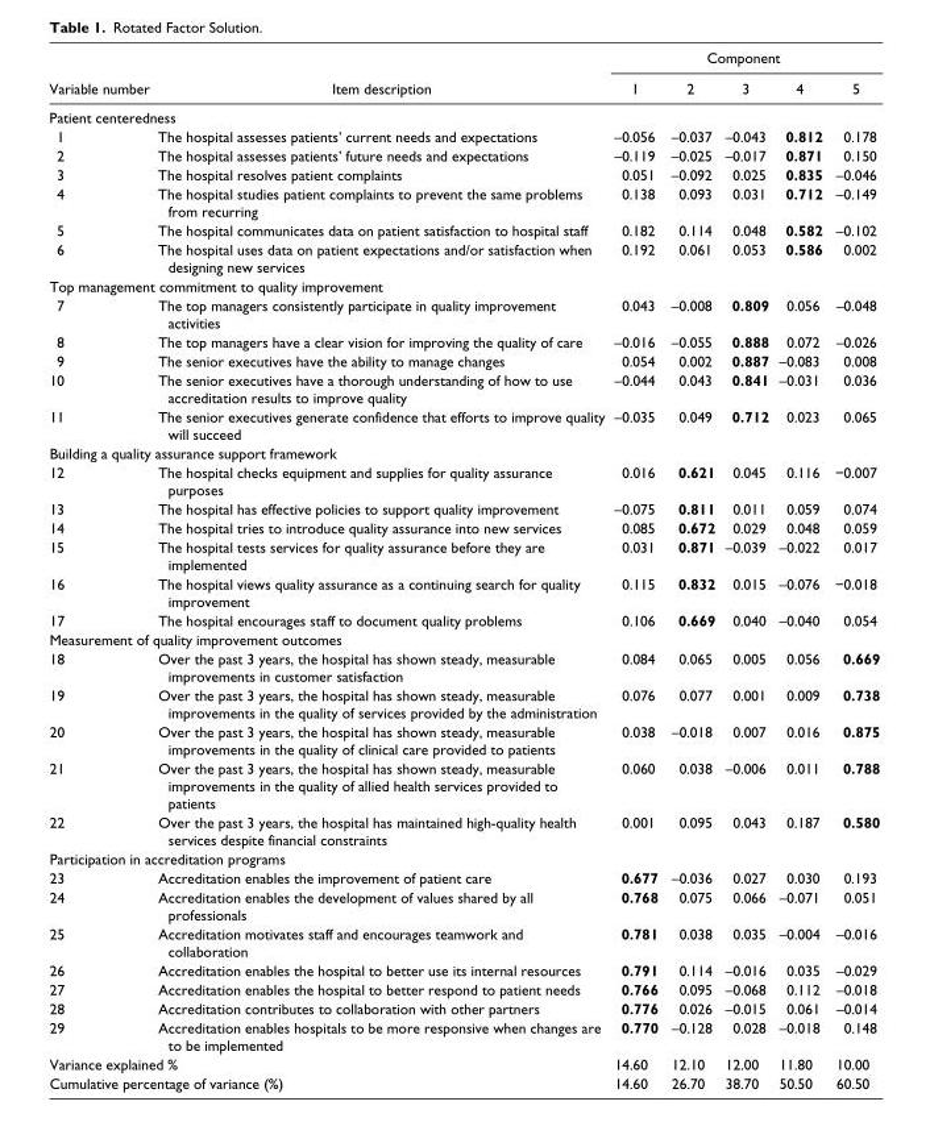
<table><thead><tr><td rowspan="2">Variable number</td><td rowspan="2">Item description</td><td colspan="5">Component</td></tr><tr><td>1</td><td>2</td><td>3</td><td>4</td><td>5</td></tr></thead><tbody><tr><td colspan="7">Patient centeredness</td></tr><tr><td>1</td><td>The hospital assesses patients’ current needs and expectations</td><td>–0.056</td><td>–0.037</td><td>–0.043</td><td>0.812</td><td>0.178</td></tr><tr><td>2</td><td>The hospital assesses patients’ future needs and expectations</td><td>–0.119</td><td>–0.025</td><td>–0.017</td><td>0.871</td><td>0.150</td></tr><tr><td>3</td><td>The hospital resolves patient complaints</td><td>0.051</td><td>–0.092</td><td>0.025</td><td>0.835</td><td>–0.046</td></tr><tr><td>4</td><td>The hospital studies patient complaints to prevent the same problems from recurring</td><td>0.138</td><td>0.093</td><td>0.031</td><td>0.712</td><td>–0.149</td></tr><tr><td>5</td><td>The hospital communicates data on patient satisfaction to hospital staff</td><td>0.182</td><td>0.114</td><td>0.048</td><td>0.582</td><td>–0.102</td></tr><tr><td>6</td><td>The hospital uses data on patient expectations and/or satisfaction when designing new services</td><td>0.192</td><td>0.061</td><td>0.053</td><td>0.586</td><td>0.002</td></tr><tr><td colspan="7">Top management commitment to quality improvement</td></tr><tr><td>7</td><td>The top managers consistently participate in quality improvement activities</td><td>0.043</td><td>–0.008</td><td>0.809</td><td>0.056</td><td>–0.048</td></tr><tr><td>8</td><td>The top managers have a clear vision for improving the quality of care</td><td>–0.016</td><td>–0.055</td><td>0.888</td><td>0.072</td><td>–0.026</td></tr><tr><td>9</td><td>The senior executives have the ability to manage changes</td><td>0.054</td><td>0.002</td><td>0.887</td><td>–0.083</td><td>0.008</td></tr><tr><td>10</td><td>The senior executives have a thorough understanding of how to use accreditation results to improve quality</td><td>–0.044</td><td>0.043</td><td>0.841</td><td>–0.031</td><td>0.036</td></tr><tr><td>11</td><td>The senior executives generate confidence that efforts to improve quality will succeed</td><td>–0.035</td><td>0.049</td><td>0.712</td><td>0.023</td><td>0.065</td></tr><tr><td colspan="7">Building a quality assurance support framework</td></tr><tr><td>12</td><td>The hospital checks equipment and supplies for quality assurance purposes</td><td>0.016</td><td>0.621</td><td>0.045</td><td>0.116</td><td>−0.007</td></tr><tr><td>13</td><td>The hospital has effective policies to support quality improvement</td><td>–0.075</td><td>0.811</td><td>0.011</td><td>0.059</td><td>0.074</td></tr><tr><td>14</td><td>The hospital tries to introduce quality assurance into new services</td><td>0.085</td><td>0.672</td><td>0.029</td><td>0.048</td><td>0.059</td></tr><tr><td>15</td><td>The hospital tests services for quality assurance before they are implemented</td><td>0.031</td><td>0.871</td><td>–0.039</td><td>–0.022</td><td>0.017</td></tr><tr><td>16</td><td>The hospital views quality assurance as a continuing search for quality improvement</td><td>0.115</td><td>0.832</td><td>0.015</td><td>–0.076</td><td>−0.018</td></tr><tr><td>17</td><td>The hospital encourages staff to document quality problems</td><td>0.106</td><td>0.669</td><td>0.040</td><td>–0.040</td><td>0.054</td></tr><tr><td colspan="7">Measurement of quality improvement outcomes</td></tr><tr><td>18</td><td>Over the past 3 years, the hospital has shown steady, measurable improvements in customer satisfaction</td><td>0.084</td><td>0.065</td><td>0.005</td><td>0.056</td><td>0.669</td></tr><tr><td>19</td><td>Over the past 3 years, the hospital has shown steady, measurable improvements in the quality of services provided by the administration</td><td>0.076</td><td>0.077</td><td>0.001</td><td>0.009</td><td>0.738</td></tr><tr><td>20</td><td>Over the past 3 years, the hospital has shown steady, measurable improvements in the quality of clinical care provided to patients</td><td>0.038</td><td>–0.018</td><td>0.007</td><td>0.016</td><td>0.875</td></tr><tr><td>21</td><td>Over the past 3 years, the hospital has shown steady, measurable improvements in the quality of allied health services provided to patients</td><td>0.060</td><td>0.038</td><td>–0.006</td><td>0.011</td><td>0.788</td></tr><tr><td>22</td><td>Over the past 3 years, the hospital has maintained high-quality health services despite financial constraints</td><td>0.001</td><td>0.095</td><td>0.043</td><td>0.187</td><td>0.580</td></tr><tr><td colspan="7">Participation in accreditation programs</td></tr><tr><td>23</td><td>Accreditation enables the improvement of patient care</td><td>0.677</td><td>–0.036</td><td>0.027</td><td>0.030</td><td>0.193</td></tr><tr><td>24</td><td>Accreditation enables the development of values shared by all professionals</td><td>0.768</td><td>0.075</td><td>0.066</td><td>–0.071</td><td>0.051</td></tr><tr><td>25</td><td>Accreditation motivates staff and encourages teamwork and collaboration</td><td>0.781</td><td>0.038</td><td>0.035</td><td>–0.004</td><td>–0.016</td></tr><tr><td>26</td><td>Accreditation enables the hospital to better use its internal resources</td><td>0.791</td><td>0.114</td><td>–0.016</td><td>0.035</td><td>–0.029</td></tr><tr><td>27</td><td>Accreditation enables the hospital to better respond to patient needs</td><td>0.766</td><td>0.095</td><td>–0.068</td><td>0.112</td><td>–0.018</td></tr><tr><td>28</td><td>Accreditation contributes to collaboration with other partners</td><td>0.776</td><td>0.026</td><td>–0.015</td><td>0.061</td><td>–0.014</td></tr><tr><td>29</td><td>Accreditation enables hospitals to be more responsive when changes are to be implemented</td><td>0.770</td><td>–0.128</td><td>0.028</td><td>–0.018</td><td>0.148</td></tr><tr><td colspan="2">Variance explained %</td><td>14.60</td><td>12.10</td><td>12.00</td><td>11.80</td><td>10.00</td></tr><tr><td colspan="2">Cumulative percentage of variance (%)</td><td>14.60</td><td>26.70</td><td>38.70</td><td>50.50</td><td>60.50</td></tr></tbody></table>